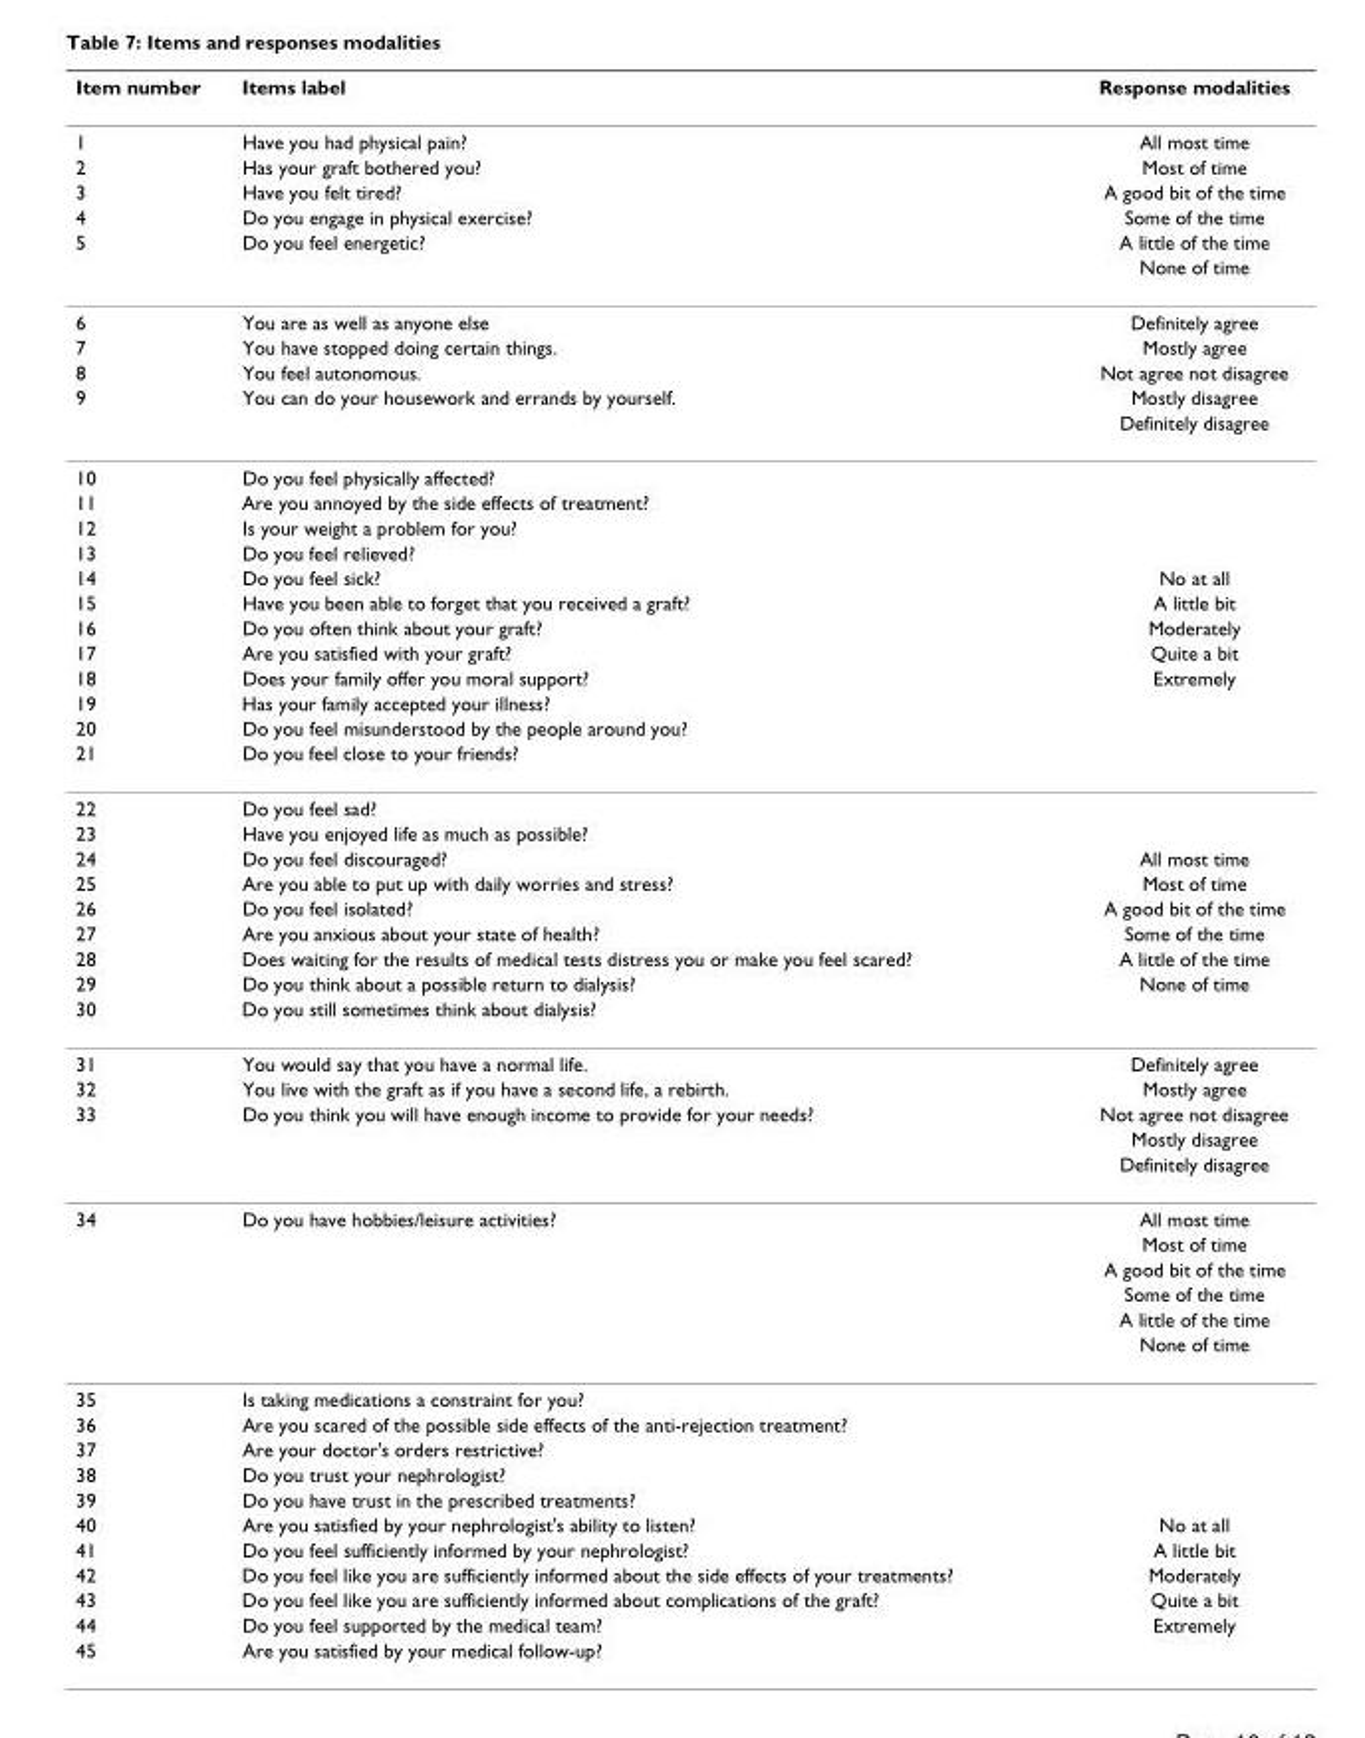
<table><thead><tr><td>Item number</td><td>Items label</td><td>Response modalities</td></tr></thead><tbody><tr><td>1</td><td>Have you had physical pain?</td><td>All most time</td></tr><tr><td>2</td><td>Has your graft bothered you?</td><td>Most of time</td></tr><tr><td>3</td><td>Have you felt tired?</td><td>A good bit of the time</td></tr><tr><td>4</td><td>Do you engage in physical exercise?</td><td>Some of the time</td></tr><tr><td rowspan="2">5</td><td>Do you feel energetic?</td><td>A little of the time</td></tr><tr><td></td><td>None of time</td></tr><tr><td>6</td><td>You are as well as anyone else</td><td>Definitely agree</td></tr><tr><td>7</td><td>You have stopped doing certain things.</td><td>Mostly agree</td></tr><tr><td>8</td><td>You feel autonomous.</td><td>Not agree not disagree</td></tr><tr><td rowspan="2">9</td><td>You can do your housework and errands by yourself.</td><td>Mostly disagree</td></tr><tr><td></td><td>Definitely disagree</td></tr><tr><td>10</td><td>Do you feel physically affected?</td><td></td></tr><tr><td>11</td><td>Are you annoyed by the side effects of treatment?</td><td></td></tr><tr><td>12</td><td>Is your weight a problem for you?</td><td></td></tr><tr><td>13</td><td>Do you feel relieved?</td><td></td></tr><tr><td>14</td><td>Do you feel sick?</td><td>No at all</td></tr><tr><td>15</td><td>Have you been able to forget that you received a graft?</td><td>A little bit</td></tr><tr><td>16</td><td>Do you often think about your graft?</td><td>Moderately</td></tr><tr><td>17</td><td>Are you satisfied with your graft?</td><td>Quite a bit</td></tr><tr><td>18</td><td>Does your family offer you moral support?</td><td>Extremely</td></tr><tr><td>19</td><td>Has your family accepted your illness?</td><td></td></tr><tr><td>20</td><td>Do you feel misunderstood by the people around you?</td><td></td></tr><tr><td>21</td><td>Do you feel close to your friends?</td><td></td></tr><tr><td>22</td><td>Do you feel sad?</td><td></td></tr><tr><td>23</td><td>Have you enjoyed life as much as possible?</td><td></td></tr><tr><td>24</td><td>Do you feel discouraged?</td><td>All most time</td></tr><tr><td>25</td><td>Are you able to put up with daily worries and stress?</td><td>Most of time</td></tr><tr><td>26</td><td>Do you feel isolated?</td><td>A good bit of the time</td></tr><tr><td>27</td><td>Are you anxious about your state of health?</td><td>Some of the time</td></tr><tr><td>28</td><td>Does waiting for the results of medical tests distress you or make you feel scared?</td><td>A little of the time</td></tr><tr><td>29</td><td>Do you think about a possible return to dialysis?</td><td>None of time</td></tr><tr><td>30</td><td>Do you still sometimes think about dialysis?</td><td></td></tr><tr><td>31</td><td>You would say that you have a normal life.</td><td>Definitely agree</td></tr><tr><td>32</td><td>You live with the graft as if you have a second life, a rebirth.</td><td>Mostly agree</td></tr><tr><td rowspan="3">33</td><td>Do you think you will have enough income to provide for your needs?</td><td>Not agree not disagree</td></tr><tr><td></td><td>Mostly disagree</td></tr><tr><td></td><td>Definitely disagree</td></tr><tr><td rowspan="6">34</td><td>Do you have hobbies/leisure activities?</td><td>All most time</td></tr><tr><td></td><td>Most of time</td></tr><tr><td></td><td>A good bit of the time</td></tr><tr><td></td><td>Some of the time</td></tr><tr><td></td><td>A little of the time</td></tr><tr><td></td><td>None of time</td></tr><tr><td>35</td><td>Is taking medications a constraint for you?</td><td></td></tr><tr><td>36</td><td>Are you scared of the possible side effects of the anti-rejection treatment?</td><td></td></tr><tr><td>37</td><td>Are your doctor&#x27;s orders restrictive?</td><td></td></tr><tr><td>38</td><td>Do you trust your nephrologist?</td><td></td></tr><tr><td>39</td><td>Do you have trust in the prescribed treatments?</td><td></td></tr><tr><td>40</td><td>Are you satisfied by your nephrologist&#x27;s ability to listen?</td><td>No at all</td></tr><tr><td>41</td><td>Do you feel sufficiently informed by your nephrologist?</td><td>A little bit</td></tr><tr><td>42</td><td>Do you feel like you are sufficiently informed about the side effects of your treatments?</td><td>Moderately</td></tr><tr><td>43</td><td>Do you feel like you are sufficiently informed about complications of the graft?</td><td>Quite a bit</td></tr><tr><td>44</td><td>Do you feel supported by the medical team?</td><td>Extremely</td></tr><tr><td>45</td><td>Are you satisfied by your medical follow-up?</td><td></td></tr></tbody></table>